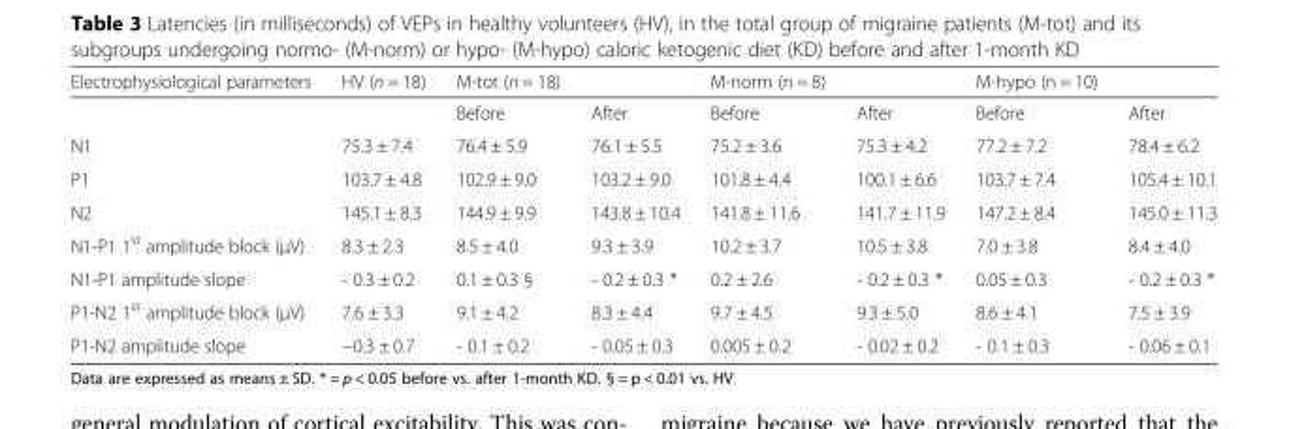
<table><thead><tr><td>Electrophysiological parameters</td><td>HV (n = 18)</td><td>M-tot (n = 18)</td><td></td><td>M-norm (n = 8)</td><td></td><td>M-hypo (n = 10)</td><td></td></tr></thead><tbody><tr><td></td><td></td><td>Before</td><td>After</td><td>Before</td><td>After</td><td>Before</td><td>After</td></tr><tr><td>N1</td><td>75.3 ± 7.4</td><td>76.4 ± 5.9</td><td>76.1 ± 5.5</td><td>75.2 ± 3.6</td><td>75.3 ± 4.2</td><td>77.2 ± 7.2</td><td>78.4 ± 6.2</td></tr><tr><td>P1</td><td>103.7 ± 4.8</td><td>102.9 ± 9.0</td><td>103.2 ± 9.0</td><td>101.8 ± 4.4</td><td>100.1 ± 6.6</td><td>103.7 ± 7.4</td><td>105.4 ± 10.1</td></tr><tr><td>N2</td><td>145.1 ± 8.3</td><td>144.9 ± 9.9</td><td>143.8 ± 10.4</td><td>141.8 ± 11.6</td><td>141.7 ± 11.9</td><td>147.2 ± 8.4</td><td>145.0 ± 11.3</td></tr><tr><td>N1-P1 1<sup>st</sup> amplitude block (μV)</td><td>8.3 ± 2.3</td><td>8.5 ± 4.0</td><td>9.3 ± 3.9</td><td>10.2 ± 3.7</td><td>10.5 ± 3.8</td><td>7.0 ± 3.8</td><td>8.4 ± 4.0</td></tr><tr><td>N1-P1 amplitude slope</td><td>- 0.3 ± 0.2</td><td>0.1 ± 0.3 §</td><td>- 0.2 ± 0.3 *</td><td>0.2 ± 2.6</td><td>- 0.2 ± 0.3 *</td><td>0.05 ± 0.3</td><td>- 0.2 ± 0.3 *</td></tr><tr><td>P1-N2 1<sup>st</sup> amplitude block (μV)</td><td>7.6 ± 3.3</td><td>9.1 ± 4.2</td><td>8.3 ± 4.4</td><td>9.7 ± 4.5</td><td>9.3 ± 5.0</td><td>8.6 ± 4.1</td><td>7.5 ± 3.9</td></tr><tr><td>P1-N2 amplitude slope</td><td>−0.3 ± 0.7</td><td>- 0.1 ± 0.2</td><td>- 0.05 ± 0.3</td><td>0.005 ± 0.2</td><td>- 0.02 ± 0.2</td><td>- 0.1 ± 0.3</td><td>- 0.06 ± 0.1</td></tr></tbody></table>